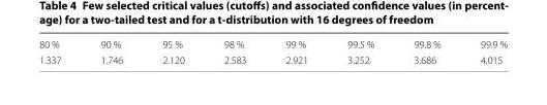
<table><tbody><tr><td>80 %</td><td>90 %</td><td>95 %</td><td>98 %</td><td>99 %</td><td>99.5 %</td><td>99.8 %</td><td>99.9 %</td></tr><tr><td>1.337</td><td>1.746</td><td>2.120</td><td>2.583</td><td>2.921</td><td>3.252</td><td>3.686</td><td>4.015</td></tr></tbody></table>